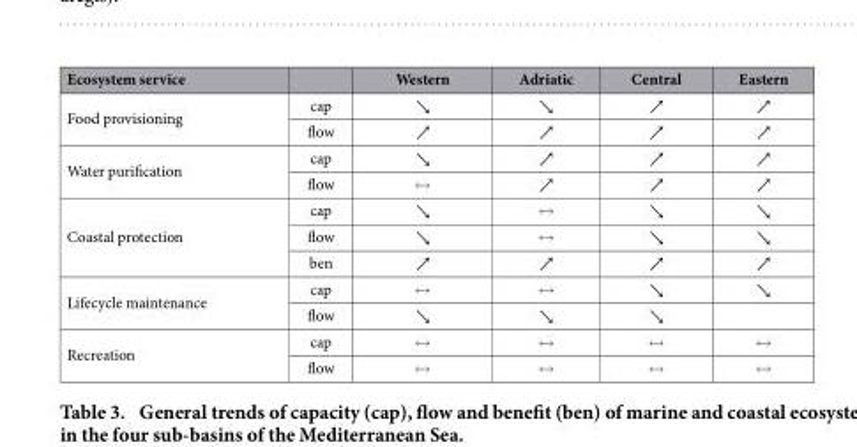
<table><thead><tr><td>Ecosystem service</td><td></td><td>Western</td><td>Adriatic</td><td>Central</td><td>Eastern</td></tr></thead><tbody><tr><td rowspan="2">Food provisioning</td><td>cap</td><td>↘</td><td>↘</td><td>↗</td><td>↗</td></tr><tr><td>flow</td><td>↗</td><td>↗</td><td>↗</td><td>↗</td></tr><tr><td rowspan="2">Water purification</td><td>cap</td><td>↘</td><td>↗</td><td>↗</td><td>↗</td></tr><tr><td>flow</td><td>↔</td><td>↗</td><td>↗</td><td>↗</td></tr><tr><td rowspan="3">Coastal protection</td><td>cap</td><td>↘</td><td>↔</td><td>↘</td><td>↘</td></tr><tr><td>flow</td><td>↘</td><td>↔</td><td>↘</td><td>↘</td></tr><tr><td>ben</td><td>↗</td><td>↗</td><td>↗</td><td>↗</td></tr><tr><td rowspan="2">Lifecycle maintenance</td><td>cap</td><td>↔</td><td>↔</td><td>↘</td><td>↘</td></tr><tr><td>flow</td><td>↘</td><td>↘</td><td>↘</td><td></td></tr><tr><td rowspan="2">Recreation</td><td>cap</td><td>↔</td><td>↔</td><td>↔</td><td>↔</td></tr><tr><td>flow</td><td>↔</td><td>↔</td><td>↔</td><td>↔</td></tr></tbody></table>